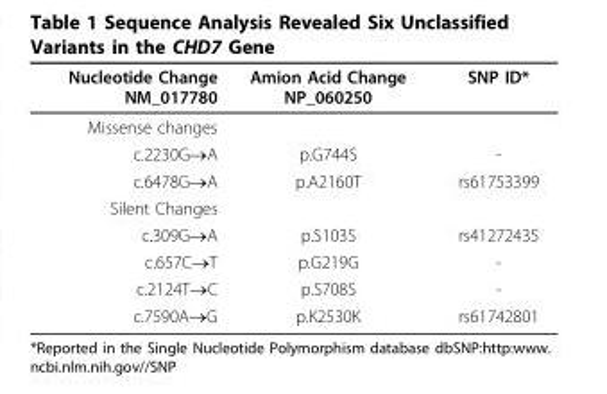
<table><thead><tr><td>Nucleotide Change NM_017780</td><td>Amion Acid Change NP_060250</td><td>SNP ID*</td></tr></thead><tbody><tr><td colspan="3">Missense changes</td></tr><tr><td>c.2230G→A</td><td>p.G744S</td><td>-</td></tr><tr><td>c.6478G→A</td><td>p.A2160T</td><td>rs61753399</td></tr><tr><td colspan="3">Silent Changes</td></tr><tr><td>c.309G→A</td><td>p.S103S</td><td>rs41272435</td></tr><tr><td>c.657C→T</td><td>p.G219G</td><td>-</td></tr><tr><td>c.2124T→C</td><td>p.S708S</td><td>-</td></tr><tr><td>c.7590A→G</td><td>p.K2530K</td><td>rs61742801</td></tr></tbody></table>